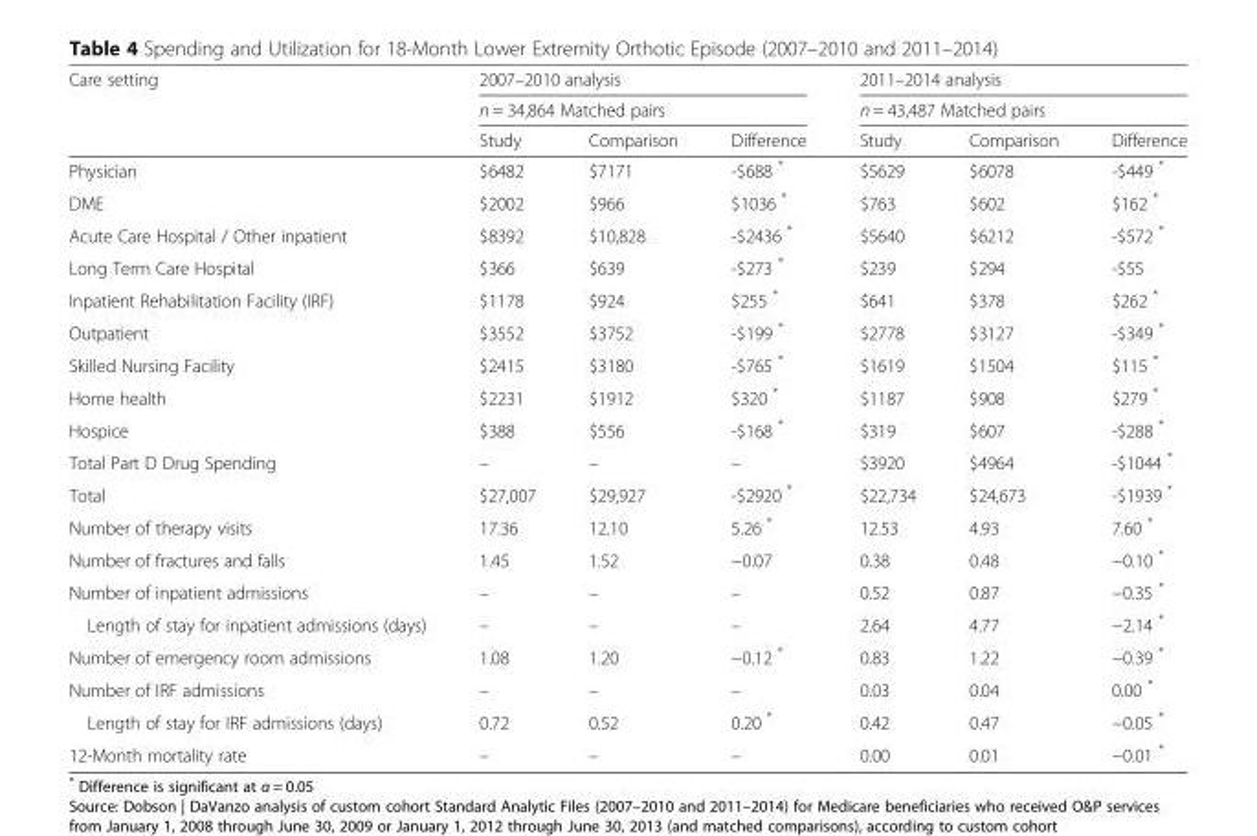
<table><thead><tr><td rowspan="3">Care setting</td><td rowspan="2" colspan="3">2007–2010 analysis n = 34,864 Matched pairs</td><td rowspan="2" colspan="3">2011–2014 analysis n = 43,487 Matched pairs</td></tr><tr></tr><tr><td>Study</td><td>Comparison</td><td>Difference</td><td>Study</td><td>Comparison</td><td>Difference</td></tr></thead><tbody><tr><td>Physician</td><td>$6482</td><td>$7171</td><td>-$688 *</td><td>$5629</td><td>$6078</td><td>-$449 *</td></tr><tr><td>DME</td><td>$2002</td><td>$966</td><td>$1036 *</td><td>$763</td><td>$602</td><td>$162 *</td></tr><tr><td>Acute Care Hospital / Other inpatient</td><td>$8392</td><td>$10,828</td><td>-$2436 *</td><td>$5640</td><td>$6212</td><td>-$572 *</td></tr><tr><td>Long Term Care Hospital</td><td>$366</td><td>$639</td><td>-$273 *</td><td>$239</td><td>$294</td><td>-$55</td></tr><tr><td>Inpatient Rehabilitation Facility (IRF)</td><td>$1178</td><td>$924</td><td>$255 *</td><td>$641</td><td>$378</td><td>$262 *</td></tr><tr><td>Outpatient</td><td>$3552</td><td>$3752</td><td>-$199 *</td><td>$2778</td><td>$3127</td><td>-$349 *</td></tr><tr><td>Skilled Nursing Facility</td><td>$2415</td><td>$3180</td><td>-$765 *</td><td>$1619</td><td>$1504</td><td>$115 *</td></tr><tr><td>Home health</td><td>$2231</td><td>$1912</td><td>$320 *</td><td>$1187</td><td>$908</td><td>$279 *</td></tr><tr><td>Hospice</td><td>$388</td><td>$556</td><td>-$168 *</td><td>$319</td><td>$607</td><td>-$288 *</td></tr><tr><td>Total Part D Drug Spending</td><td>–</td><td>–</td><td>–</td><td>$3920</td><td>$4964</td><td>-$1044 *</td></tr><tr><td>Total</td><td>$27,007</td><td>$29,927</td><td>-$2920 *</td><td>$22,734</td><td>$24,673</td><td>-$1939 *</td></tr><tr><td>Number of therapy visits</td><td>17.36</td><td>12.10</td><td>5.26 *</td><td>12.53</td><td>4.93</td><td>7.60 *</td></tr><tr><td>Number of fractures and falls</td><td>1.45</td><td>1.52</td><td>−0.07</td><td>0.38</td><td>0.48</td><td>−0.10 *</td></tr><tr><td>Number of inpatient admissions</td><td>–</td><td>–</td><td>–</td><td>0.52</td><td>0.87</td><td>−0.35 *</td></tr><tr><td>Length of stay for inpatient admissions (days)</td><td>–</td><td>–</td><td>–</td><td>2.64</td><td>4.77</td><td>−2.14 *</td></tr><tr><td>Number of emergency room admissions</td><td>1.08</td><td>1.20</td><td>−0.12 *</td><td>0.83</td><td>1.22</td><td>−0.39 *</td></tr><tr><td>Number of IRF admissions</td><td>–</td><td>–</td><td>–</td><td>0.03</td><td>0.04</td><td>0.00 *</td></tr><tr><td>Length of stay for IRF admissions (days)</td><td>0.72</td><td>0.52</td><td>0.20 *</td><td>0.42</td><td>0.47</td><td>−0.05 *</td></tr><tr><td>12-Month mortality rate</td><td>–</td><td>–</td><td>–</td><td>0.00</td><td>0.01</td><td>−0.01 *</td></tr></tbody></table>